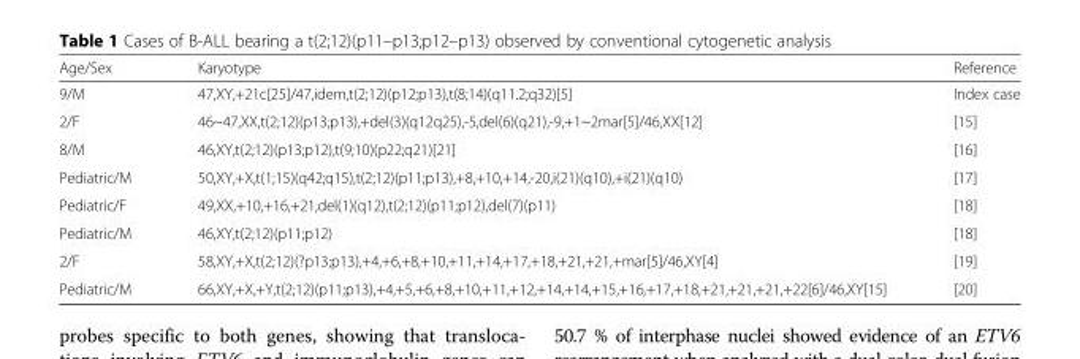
<table><thead><tr><td>Age/Sex</td><td>Karyotype</td><td>Reference</td></tr></thead><tbody><tr><td>9/M</td><td>47,XY,+21c[25]/47,idem,t(2;12)(p12;p13),t(8;14)(q11.2;q32)[5]</td><td>Index case</td></tr><tr><td>2/F</td><td>46~47,XX,t(2;12)(p13;p13),+del(3)(q12q25),-5,del(6)(q21),-9,+1~2mar[5]/46,XX[12]</td><td>[15]</td></tr><tr><td>8/M</td><td>46,XY,t(2;12)(p13;p12),t(9;10)(p22;q21)[21]</td><td>[16]</td></tr><tr><td>Pediatric/M</td><td>50,XY,+X,t(1;15)(q42;q15),t(2;12)(p11;p13),+8,+10,+14,-20,i(21)(q10),+i(21)(q10)</td><td>[17]</td></tr><tr><td>Pediatric/F</td><td>49,XX,+10,+16,+21,del(1)(q12),t(2;12)(p11;p12),del(7)(p11)</td><td>[18]</td></tr><tr><td>Pediatric/M</td><td>46,XY,t(2;12)(p11;p12)</td><td>[18]</td></tr><tr><td>2/F</td><td>58,XY,+X,t(2;12)(?p13;p13),+4,+6,+8,+10,+11,+14,+17,+18,+21,+21,+mar[5]/46,XY[4]</td><td>[19]</td></tr><tr><td>Pediatric/M</td><td>66,XY,+X,+Y,t(2;12)(p11;p13),+4,+5,+6,+8,+10,+11,+12,+14,+14,+15,+16,+17,+18,+21,+21,+21,+22[6]/46,XY[15]</td><td>[20]</td></tr></tbody></table>